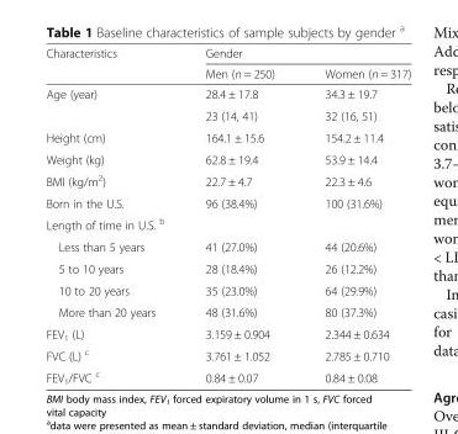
<table><thead><tr><td rowspan="2">Characteristics</td><td colspan="2">Gender</td></tr><tr><td>Men (n = 250)</td><td>Women (n = 317)</td></tr></thead><tbody><tr><td rowspan="2">Age (year)</td><td>28.4 ± 17.8</td><td>34.3 ± 19.7</td></tr><tr><td>23 (14, 41)</td><td>32 (16, 51)</td></tr><tr><td>Height (cm)</td><td>164.1 ± 15.6</td><td>154.2 ± 11.4</td></tr><tr><td>Weight (kg)</td><td>62.8 ± 19.4</td><td>53.9 ± 14.4</td></tr><tr><td>BMI (kg/m<sup>2</sup>)</td><td>22.7 ± 4.7</td><td>22.3 ± 4.6</td></tr><tr><td>Born in the U.S.</td><td>96 (38.4%)</td><td>100 (31.6%)</td></tr><tr><td colspan="3">Length of time in U.S. <sup>b</sup></td></tr><tr><td>Less than 5 years</td><td>41 (27.0%)</td><td>44 (20.6%)</td></tr><tr><td>5 to 10 years</td><td>28 (18.4%)</td><td>26 (12.2%)</td></tr><tr><td>10 to 20 years</td><td>35 (23.0%)</td><td>64 (29.9%)</td></tr><tr><td>More than 20 years</td><td>48 (31.6%)</td><td>80 (37.3%)</td></tr><tr><td>FEV<sub>1</sub> (L)</td><td>3.159 ± 0.904</td><td>2.344 ± 0.634</td></tr><tr><td>FVC (L) <sup>c</sup></td><td>3.761 ± 1.052</td><td>2.785 ± 0.710</td></tr><tr><td>FEV<sub>1</sub>/FVC <sup>c</sup></td><td>0.84 ± 0.07</td><td>0.84 ± 0.08</td></tr></tbody></table>